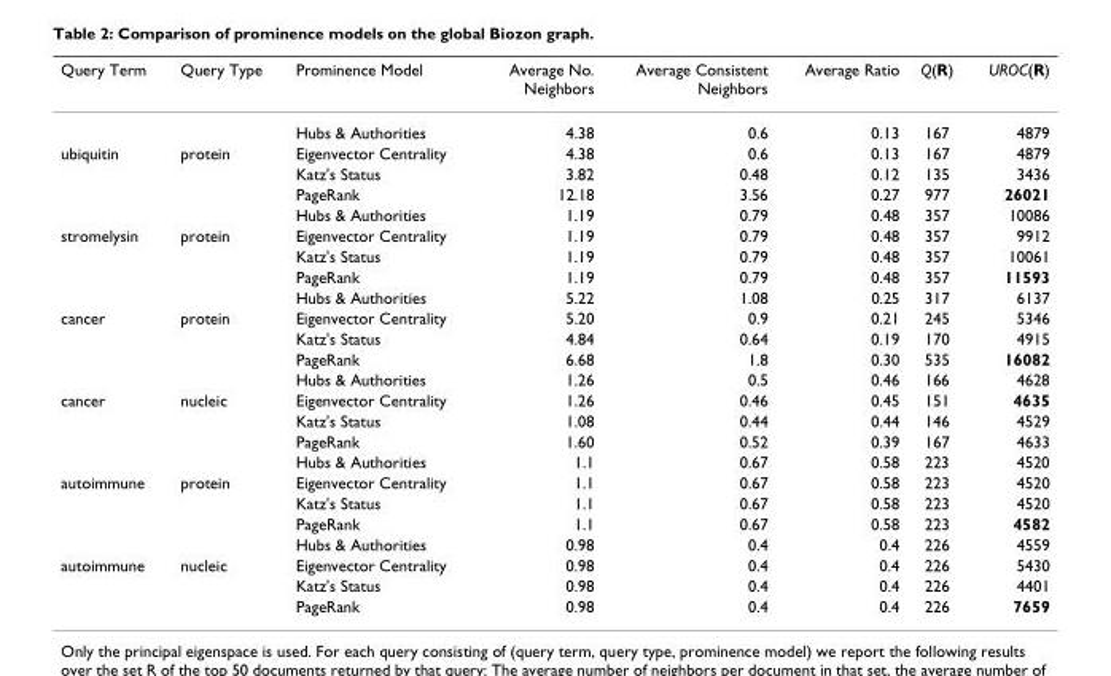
<table><thead><tr><td>Query Term</td><td>Query Type</td><td>Prominence Model</td><td>Average No. Neighbors</td><td>Average Consistent Neighbors</td><td>Average Ratio</td><td>Q(R)</td><td>UROC(R)</td></tr></thead><tbody><tr><td></td><td></td><td>Hubs &amp; Authorities</td><td>4.38</td><td>0.6</td><td>0.13</td><td>167</td><td>4879</td></tr><tr><td rowspan="4">ubiquitin</td><td>protein</td><td>Eigenvector Centrality</td><td>4.38</td><td>0.6</td><td>0.13</td><td>167</td><td>4879</td></tr><tr><td></td><td>Katz&#x27;s Status</td><td>3.82</td><td>0.48</td><td>0.12</td><td>135</td><td>3436</td></tr><tr><td></td><td>PageRank</td><td>12.18</td><td>3.56</td><td>0.27</td><td>977</td><td>26021</td></tr><tr><td></td><td>Hubs &amp; Authorities</td><td>1.19</td><td>0.79</td><td>0.48</td><td>357</td><td>10086</td></tr><tr><td rowspan="4">stromelysin</td><td>protein</td><td>Eigenvector Centrality</td><td>1.19</td><td>0.79</td><td>0.48</td><td>357</td><td>9912</td></tr><tr><td></td><td>Katz&#x27;s Status</td><td>1.19</td><td>0.79</td><td>0.48</td><td>357</td><td>10061</td></tr><tr><td></td><td>PageRank</td><td>1.19</td><td>0.79</td><td>0.48</td><td>357</td><td>11593</td></tr><tr><td></td><td>Hubs &amp; Authorities</td><td>5.22</td><td>1.08</td><td>0.25</td><td>317</td><td>6137</td></tr><tr><td rowspan="4">cancer</td><td>protein</td><td>Eigenvector Centrality</td><td>5.20</td><td>0.9</td><td>0.21</td><td>245</td><td>5346</td></tr><tr><td></td><td>Katz&#x27;s Status</td><td>4.84</td><td>0.64</td><td>0.19</td><td>170</td><td>4915</td></tr><tr><td></td><td>PageRank</td><td>6.68</td><td>1.8</td><td>0.30</td><td>535</td><td>16082</td></tr><tr><td></td><td>Hubs &amp; Authorities</td><td>1.26</td><td>0.5</td><td>0.46</td><td>166</td><td>4628</td></tr><tr><td rowspan="4">cancer</td><td>nucleic</td><td>Eigenvector Centrality</td><td>1.26</td><td>0.46</td><td>0.45</td><td>151</td><td>4635</td></tr><tr><td></td><td>Katz&#x27;s Status</td><td>1.08</td><td>0.44</td><td>0.44</td><td>146</td><td>4529</td></tr><tr><td></td><td>PageRank</td><td>1.60</td><td>0.52</td><td>0.39</td><td>167</td><td>4633</td></tr><tr><td></td><td>Hubs &amp; Authorities</td><td>1.1</td><td>0.67</td><td>0.58</td><td>223</td><td>4520</td></tr><tr><td rowspan="4">autoimmune</td><td>protein</td><td>Eigenvector Centrality</td><td>1.1</td><td>0.67</td><td>0.58</td><td>223</td><td>4520</td></tr><tr><td></td><td>Katz&#x27;s Status</td><td>1.1</td><td>0.67</td><td>0.58</td><td>223</td><td>4520</td></tr><tr><td></td><td>PageRank</td><td>1.1</td><td>0.67</td><td>0.58</td><td>223</td><td>4582</td></tr><tr><td></td><td>Hubs &amp; Authorities</td><td>0.98</td><td>0.4</td><td>0.4</td><td>226</td><td>4559</td></tr><tr><td rowspan="3">autoimmune</td><td>nucleic</td><td>Eigenvector Centrality</td><td>0.98</td><td>0.4</td><td>0.4</td><td>226</td><td>5430</td></tr><tr><td></td><td>Katz&#x27;s Status</td><td>0.98</td><td>0.4</td><td>0.4</td><td>226</td><td>4401</td></tr><tr><td></td><td>PageRank</td><td>0.98</td><td>0.4</td><td>0.4</td><td>226</td><td>7659</td></tr></tbody></table>